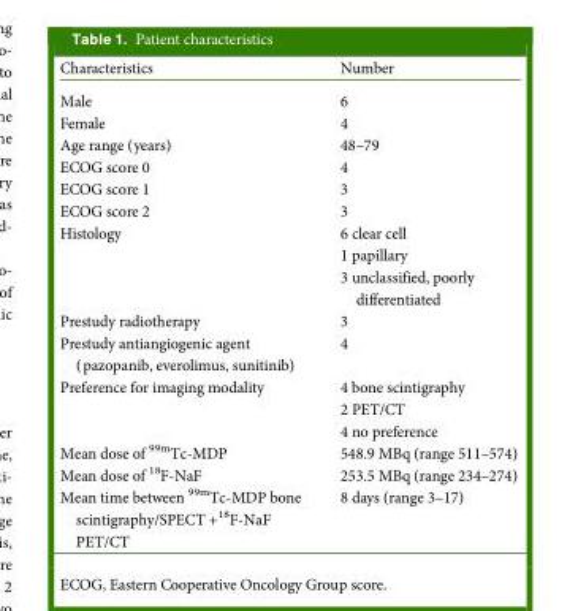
<table><thead><tr><td>Characteristics</td><td>Number</td></tr></thead><tbody><tr><td>Male</td><td>6</td></tr><tr><td>Female</td><td>4</td></tr><tr><td>Age range (years)</td><td>48–79</td></tr><tr><td>ECOG score 0</td><td>4</td></tr><tr><td>ECOG score 1</td><td>3</td></tr><tr><td>ECOG score 2</td><td>3</td></tr><tr><td rowspan="3">Histology</td><td>6 clear cell</td></tr><tr><td>1 papillary</td></tr><tr><td>3 unclassified, poorly differentiated</td></tr><tr><td>Prestudy radiotherapy</td><td>3</td></tr><tr><td>Prestudy antiangiogenic agent (pazopanib, everolimus, sunitinib)</td><td>4</td></tr><tr><td rowspan="3">Preference for imaging modality</td><td>4 bone scintigraphy</td></tr><tr><td>2 PET/CT</td></tr><tr><td>4 no preference</td></tr><tr><td>Mean dose of <sup>99m</sup>Tc-MDP</td><td>548.9 MBq (range 511–574)</td></tr><tr><td>Mean dose of <sup>18</sup>F-NaF</td><td>253.5 MBq (range 234–274)</td></tr><tr><td>Mean time between <sup>99m</sup>Tc-MDP bone scintigraphy/SPECT +<sup>18</sup>F-NaF PET/CT</td><td>8 days (range 3–17)</td></tr></tbody></table>